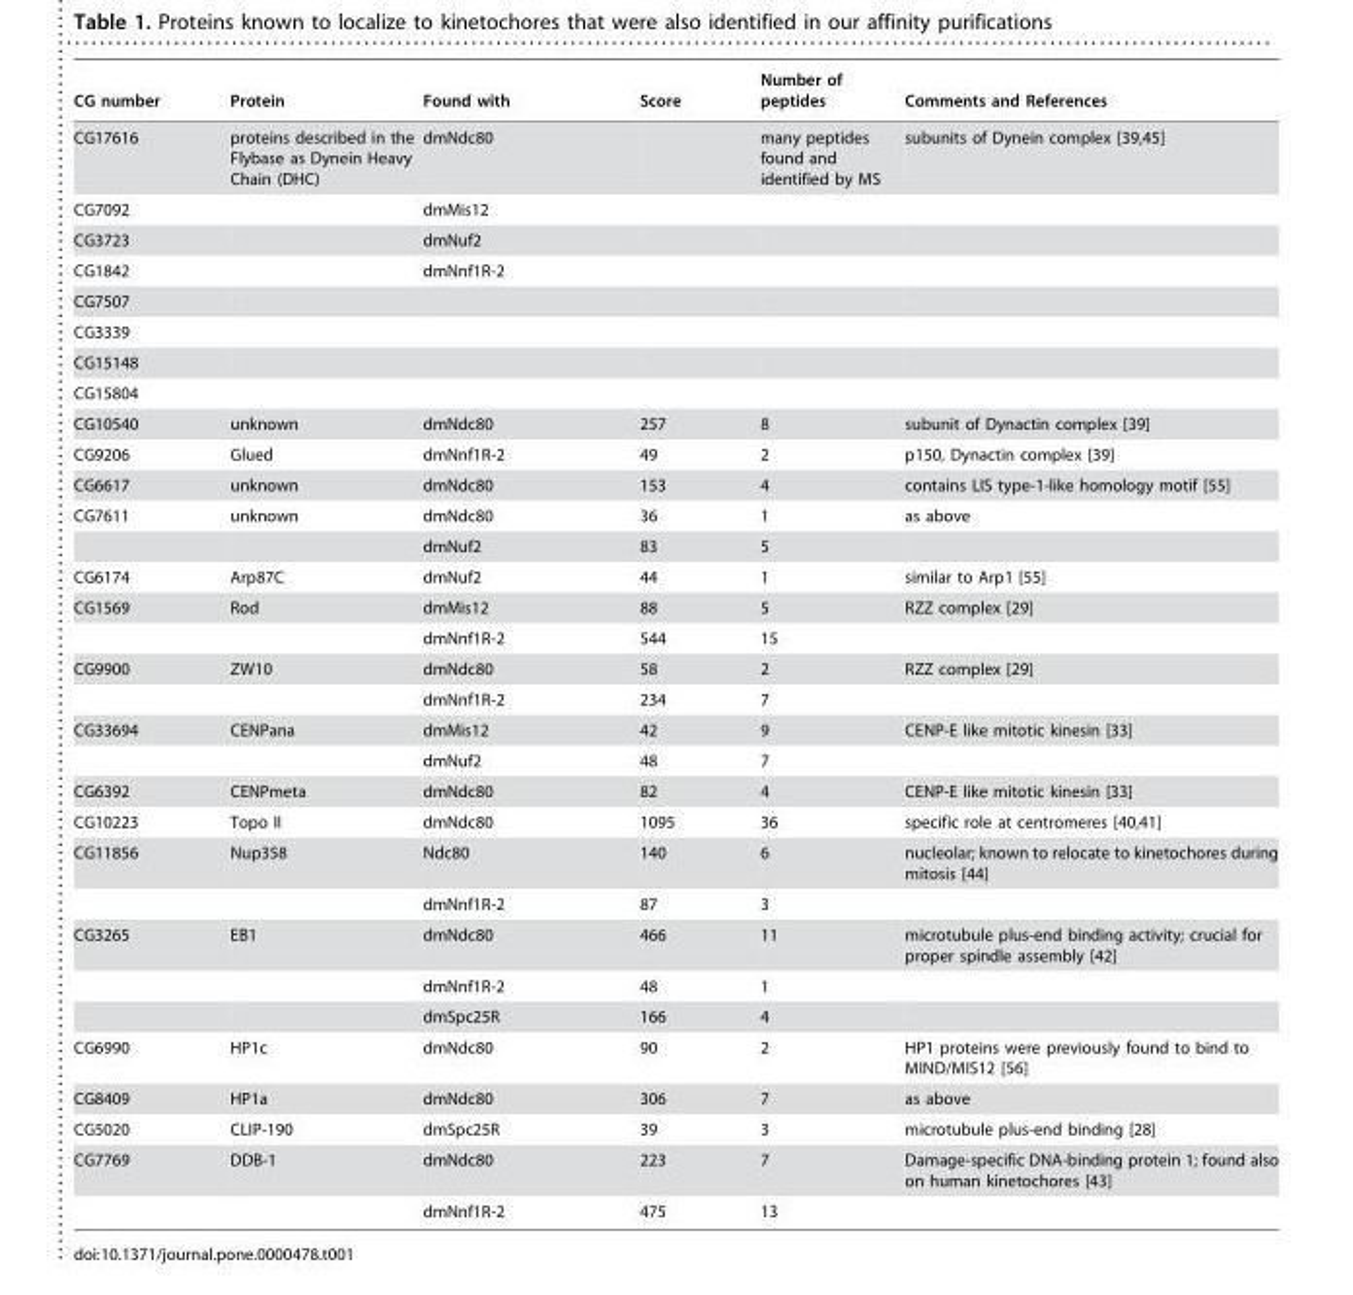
<table><thead><tr><td>CG number</td><td>Protein</td><td>Found with</td><td>Score</td><td>Number of peptides</td><td>Comments and References</td></tr></thead><tbody><tr><td>CG17616</td><td>proteins described in the Flybase as Dynein Heavy Chain (DHC)</td><td>dmNdc80</td><td></td><td>many peptides found and identified by MS</td><td>subunits of Dynein complex [39,45]</td></tr><tr><td>CG7092</td><td></td><td>dmMis12</td><td></td><td></td><td></td></tr><tr><td>CG3723</td><td></td><td>dmNuf2</td><td></td><td></td><td></td></tr><tr><td>CG1842</td><td></td><td>dmNnf1R-2</td><td></td><td></td><td></td></tr><tr><td colspan="6">CG7507</td></tr><tr><td colspan="6">CG3339</td></tr><tr><td colspan="6">CG15148</td></tr><tr><td colspan="6">CG15804</td></tr><tr><td>CG10540</td><td>unknown</td><td>dmNdc80</td><td>257</td><td>8</td><td>subunit of Dynactin complex [39]</td></tr><tr><td>CG9206</td><td>Glued</td><td>dmNnf1R-2</td><td>49</td><td>2</td><td>p150, Dynactin complex [39]</td></tr><tr><td>CG6617</td><td>unknown</td><td>dmNdc80</td><td>153</td><td>4</td><td>contains LIS type-1-like homology motif [55]</td></tr><tr><td rowspan="2">CG7611</td><td>unknown</td><td>dmNdc80</td><td>36</td><td>1</td><td>as above</td></tr><tr><td></td><td>dmNuf2</td><td>83</td><td>5</td><td></td></tr><tr><td>CG6174</td><td>Arp87C</td><td>dmNuf2</td><td>44</td><td>1</td><td>similar to Arp1 [55]</td></tr><tr><td rowspan="2">CG1569</td><td>Rod</td><td>dmMis12</td><td>88</td><td>5</td><td>RZZ complex [29]</td></tr><tr><td></td><td>dmNnf1R-2</td><td>544</td><td>15</td><td></td></tr><tr><td rowspan="2">CG9900</td><td>ZW10</td><td>dmNdc80</td><td>58</td><td>2</td><td>RZZ complex [29]</td></tr><tr><td></td><td>dmNnf1R-2</td><td>234</td><td>7</td><td></td></tr><tr><td rowspan="2">CG33694</td><td>CENPana</td><td>dmMis12</td><td>42</td><td>9</td><td>CENP-E like mitotic kinesin [33]</td></tr><tr><td></td><td>dmNuf2</td><td>48</td><td>7</td><td></td></tr><tr><td>CG6392</td><td>CENPmeta</td><td>dmNdc80</td><td>82</td><td>4</td><td>CENP-E like mitotic kinesin [33]</td></tr><tr><td>CG10223</td><td>Topo II</td><td>dmNdc80</td><td>1095</td><td>36</td><td>specific role at centromeres [40,41]</td></tr><tr><td rowspan="2">CG11856</td><td>Nup358</td><td>Ndc80</td><td>140</td><td>6</td><td>nucleolar; known to relocate to kinetochores during mitosis [44]</td></tr><tr><td></td><td>dmNnf1R-2</td><td>87</td><td>3</td><td></td></tr><tr><td rowspan="3">CG3265</td><td>EB1</td><td>dmNdc80</td><td>466</td><td>11</td><td>microtubule plus-end binding activity; crucial for proper spindle assembly [42]</td></tr><tr><td></td><td>dmNnf1R-2</td><td>48</td><td>1</td><td></td></tr><tr><td></td><td>dmSpc25R</td><td>166</td><td>4</td><td></td></tr><tr><td>CG6990</td><td>HP1c</td><td>dmNdc80</td><td>90</td><td>2</td><td>HP1 proteins were previously found to bind to MIND/MIS12 [56]</td></tr><tr><td>CG8409</td><td>HP1a</td><td>dmNdc80</td><td>306</td><td>7</td><td>as above</td></tr><tr><td>CG5020</td><td>CLIP-190</td><td>dmSpc25R</td><td>39</td><td>3</td><td>microtubule plus-end binding [28]</td></tr><tr><td rowspan="2">CG7769</td><td>DDB-1</td><td>dmNdc80</td><td>223</td><td>7</td><td>Damage-specific DNA-binding protein 1; found also on human kinetochores [43]</td></tr><tr><td></td><td>dmNnf1R-2</td><td>475</td><td>13</td><td></td></tr></tbody></table>